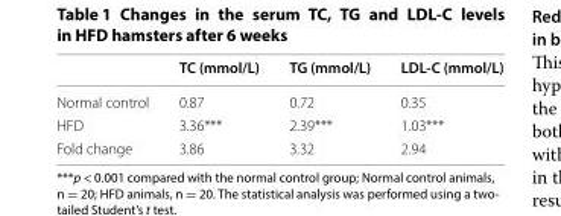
<table><thead><tr><td></td><td>TC (mmol/L)</td><td>TG (mmol/L)</td><td>LDL-C (mmol/L)</td></tr></thead><tbody><tr><td>Normal control</td><td>0.87</td><td>0.72</td><td>0.35</td></tr><tr><td>HFD</td><td>3.36***</td><td>2.39***</td><td>1.03***</td></tr><tr><td>Fold change</td><td>3.86</td><td>3.32</td><td>2.94</td></tr></tbody></table>